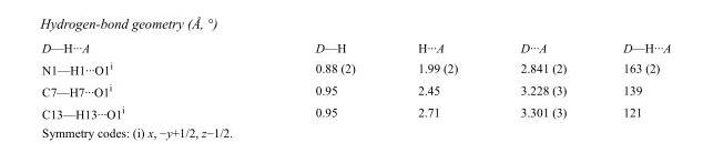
<table><tbody><tr><td>D—H···A</td><td>D—H</td><td>H···A</td><td>D···A</td><td>D—H···A</td></tr><tr><td>N1—H1···O1<sup>i</sup></td><td>0.88 (2)</td><td>1.99 (2)</td><td>2.841 (2)</td><td>163 (2)</td></tr><tr><td>C7—H7···O1<sup>i</sup></td><td>0.95</td><td>2.45</td><td>3.228 (3)</td><td>139</td></tr><tr><td>C13—H13···O1<sup>i</sup></td><td>0.95</td><td>2.71</td><td>3.301 (3)</td><td>121</td></tr></tbody></table>